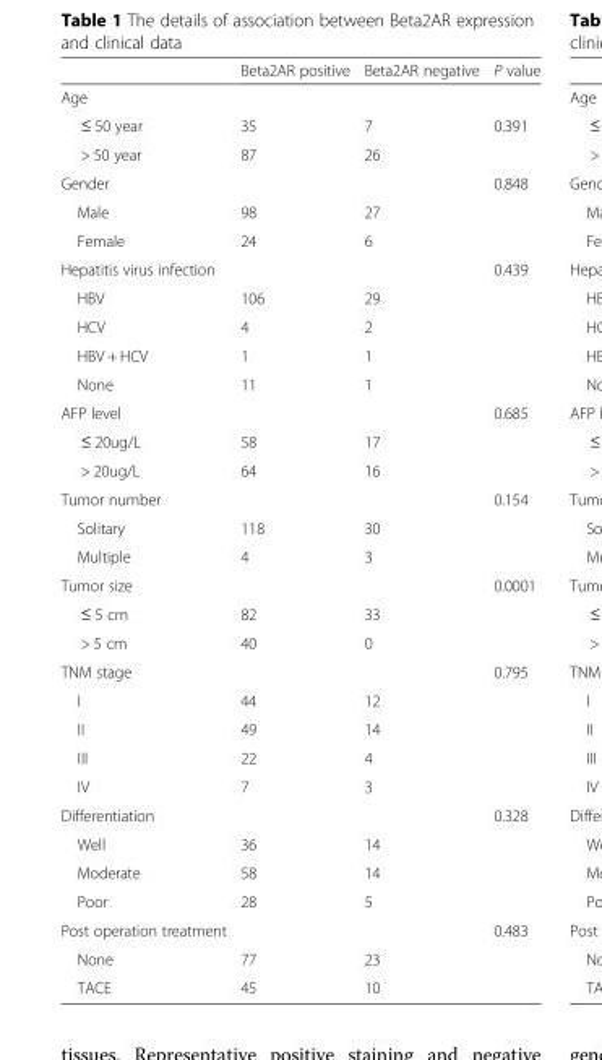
<table><thead><tr><td></td><td>Beta2AR positive</td><td>Beta2AR negative</td><td>P value</td></tr></thead><tbody><tr><td colspan="4">Age</td></tr><tr><td>≤ 50 year</td><td>35</td><td>7</td><td>0.391</td></tr><tr><td>&gt; 50 year</td><td>87</td><td>26</td><td></td></tr><tr><td>Gender</td><td></td><td></td><td>0.848</td></tr><tr><td>Male</td><td>98</td><td>27</td><td></td></tr><tr><td>Female</td><td>24</td><td>6</td><td></td></tr><tr><td>Hepatitis virus infection</td><td></td><td></td><td>0.439</td></tr><tr><td>HBV</td><td>106</td><td>29</td><td></td></tr><tr><td>HCV</td><td>4</td><td>2</td><td></td></tr><tr><td>HBV + HCV</td><td>1</td><td>1</td><td></td></tr><tr><td>None</td><td>11</td><td>1</td><td></td></tr><tr><td>AFP level</td><td></td><td></td><td>0.685</td></tr><tr><td>≤ 20ug/L</td><td>58</td><td>17</td><td></td></tr><tr><td>&gt; 20ug/L</td><td>64</td><td>16</td><td></td></tr><tr><td>Tumor number</td><td></td><td></td><td>0.154</td></tr><tr><td>Solitary</td><td>118</td><td>30</td><td></td></tr><tr><td>Multiple</td><td>4</td><td>3</td><td></td></tr><tr><td>Tumor size</td><td></td><td></td><td>0.0001</td></tr><tr><td>≤ 5 cm</td><td>82</td><td>33</td><td></td></tr><tr><td>&gt; 5 cm</td><td>40</td><td>0</td><td></td></tr><tr><td>TNM stage</td><td></td><td></td><td>0.795</td></tr><tr><td>I</td><td>44</td><td>12</td><td></td></tr><tr><td>II</td><td>49</td><td>14</td><td></td></tr><tr><td>III</td><td>22</td><td>4</td><td></td></tr><tr><td>IV</td><td>7</td><td>3</td><td></td></tr><tr><td>Differentiation</td><td></td><td></td><td>0.328</td></tr><tr><td>Well</td><td>36</td><td>14</td><td></td></tr><tr><td>Moderate</td><td>58</td><td>14</td><td></td></tr><tr><td>Poor</td><td>28</td><td>5</td><td></td></tr><tr><td>Post operation treatment</td><td></td><td></td><td>0.483</td></tr><tr><td>None</td><td>77</td><td>23</td><td></td></tr><tr><td>TACE</td><td>45</td><td>10</td><td></td></tr></tbody></table>